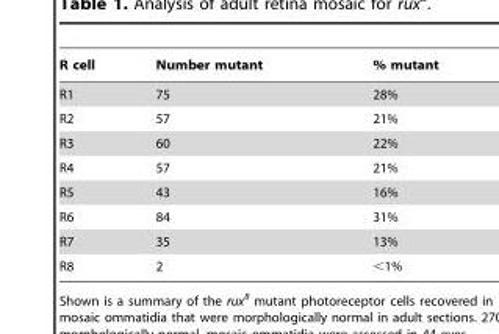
<table><thead><tr><td>R cell</td><td>Number mutant</td><td>% mutant</td></tr></thead><tbody><tr><td>R1</td><td>75</td><td>28%</td></tr><tr><td>R2</td><td>57</td><td>21%</td></tr><tr><td>R3</td><td>60</td><td>22%</td></tr><tr><td>R4</td><td>57</td><td>21%</td></tr><tr><td>R5</td><td>43</td><td>16%</td></tr><tr><td>R6</td><td>84</td><td>31%</td></tr><tr><td>R7</td><td>35</td><td>13%</td></tr><tr><td>R8</td><td>2</td><td>&lt;1%</td></tr></tbody></table>